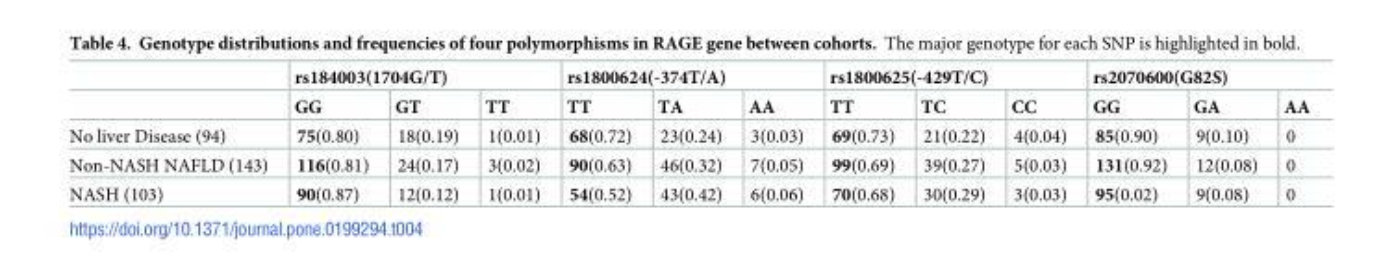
<table><thead><tr><td rowspan="2"></td><td colspan="3">rs184003(1704G/T)</td><td colspan="3">rs1800624(-374T/A)</td><td colspan="3">rs1800625(-429T/C)</td><td colspan="3">rs2070600(G82S)</td></tr><tr><td>GG</td><td>GT</td><td>TT</td><td>TT</td><td>TA</td><td>AA</td><td>TT</td><td>TC</td><td>CC</td><td>GG</td><td>GA</td><td>AA</td></tr></thead><tbody><tr><td>No liver Disease (94)</td><td>75(0.80)</td><td>18(0.19)</td><td>1(0.01)</td><td>68(0.72)</td><td>23(0.24)</td><td>3(0.03)</td><td>69(0.73)</td><td>21(0.22)</td><td>4(0.04)</td><td>85(0.90)</td><td>9(0.10)</td><td>0</td></tr><tr><td>Non-NASH NAFLD (143)</td><td>116(0.81)</td><td>24(0.17)</td><td>3(0.02)</td><td>90(0.63)</td><td>46(0.32)</td><td>7(0.05)</td><td>99(0.69)</td><td>39(0.27)</td><td>5(0.03)</td><td>131(0.92)</td><td>12(0.08)</td><td>0</td></tr><tr><td>NASH (103)</td><td>90(0.87)</td><td>12(0.12)</td><td>1(0.01)</td><td>54(0.52)</td><td>43(0.42)</td><td>6(0.06)</td><td>70(0.68)</td><td>30(0.29)</td><td>3(0.03)</td><td>95(0.02)</td><td>9(0.08)</td><td>0</td></tr></tbody></table>